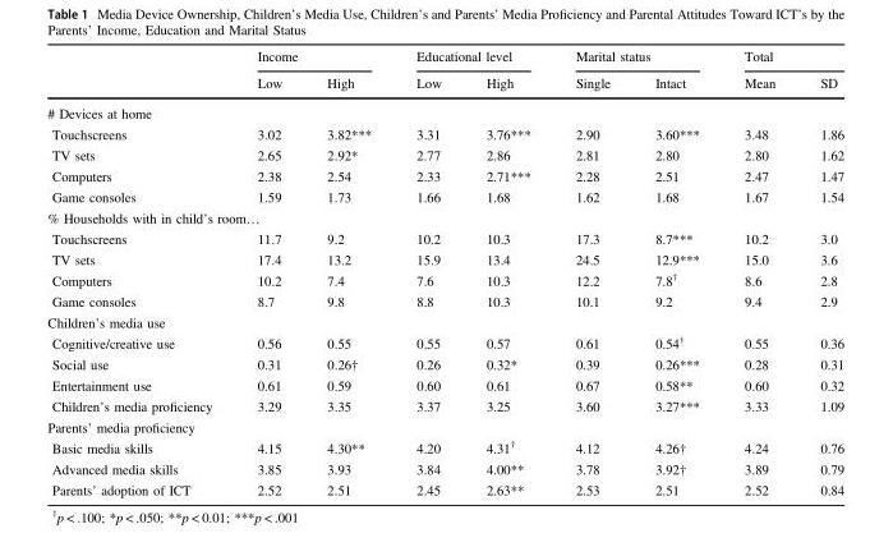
<table><thead><tr><td rowspan="2"></td><td colspan="2">Income</td><td colspan="2">Educational level</td><td colspan="2">Marital status</td><td colspan="2">Total</td></tr><tr><td>Low</td><td>High</td><td>Low</td><td>High</td><td>Single</td><td>Intact</td><td>Mean</td><td>SD</td></tr></thead><tbody><tr><td colspan="9"># Devices at home</td></tr><tr><td>Touchscreens</td><td>3.02</td><td>3.82***</td><td>3.31</td><td>3.76***</td><td>2.90</td><td>3.60***</td><td>3.48</td><td>1.86</td></tr><tr><td>TV sets</td><td>2.65</td><td>2.92*</td><td>2.77</td><td>2.86</td><td>2.81</td><td>2.80</td><td>2.80</td><td>1.62</td></tr><tr><td>Computers</td><td>2.38</td><td>2.54</td><td>2.33</td><td>2.71***</td><td>2.28</td><td>2.51</td><td>2.47</td><td>1.47</td></tr><tr><td>Game consoles</td><td>1.59</td><td>1.73</td><td>1.66</td><td>1.68</td><td>1.62</td><td>1.68</td><td>1.67</td><td>1.54</td></tr><tr><td colspan="9">% Households with in child’s room…</td></tr><tr><td>Touchscreens</td><td>11.7</td><td>9.2</td><td>10.2</td><td>10.3</td><td>17.3</td><td>8.7***</td><td>10.2</td><td>3.0</td></tr><tr><td>TV sets</td><td>17.4</td><td>13.2</td><td>15.9</td><td>13.4</td><td>24.5</td><td>12.9***</td><td>15.0</td><td>3.6</td></tr><tr><td>Computers</td><td>10.2</td><td>7.4</td><td>7.6</td><td>10.3</td><td>12.2</td><td>7.8<sup>†</sup></td><td>8.6</td><td>2.8</td></tr><tr><td>Game consoles</td><td>8.7</td><td>9.8</td><td>8.8</td><td>10.3</td><td>10.1</td><td>9.2</td><td>9.4</td><td>2.9</td></tr><tr><td colspan="9">Children’s media use</td></tr><tr><td>Cognitive/creative use</td><td>0.56</td><td>0.55</td><td>0.55</td><td>0.57</td><td>0.61</td><td>0.54<sup>†</sup></td><td>0.55</td><td>0.36</td></tr><tr><td>Social use</td><td>0.31</td><td>0.26†</td><td>0.26</td><td>0.32*</td><td>0.39</td><td>0.26***</td><td>0.28</td><td>0.31</td></tr><tr><td>Entertainment use</td><td>0.61</td><td>0.59</td><td>0.60</td><td>0.61</td><td>0.67</td><td>0.58**</td><td>0.60</td><td>0.32</td></tr><tr><td>Children’s media proficiency</td><td>3.29</td><td>3.35</td><td>3.37</td><td>3.25</td><td>3.60</td><td>3.27***</td><td>3.33</td><td>1.09</td></tr><tr><td colspan="9">Parents’ media proficiency</td></tr><tr><td>Basic media skills</td><td>4.15</td><td>4.30**</td><td>4.20</td><td>4.31<sup>†</sup></td><td>4.12</td><td>4.26†</td><td>4.24</td><td>0.76</td></tr><tr><td>Advanced media skills</td><td>3.85</td><td>3.93</td><td>3.84</td><td>4.00**</td><td>3.78</td><td>3.92†</td><td>3.89</td><td>0.79</td></tr><tr><td>Parents’ adoption of ICT</td><td>2.52</td><td>2.51</td><td>2.45</td><td>2.63**</td><td>2.53</td><td>2.51</td><td>2.52</td><td>0.84</td></tr></tbody></table>